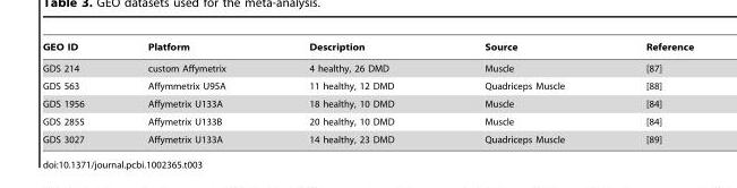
<table><thead><tr><td>GEO ID</td><td>Platform</td><td>Description</td><td>Source</td><td>Reference</td></tr></thead><tbody><tr><td>GDS 214</td><td>custom Affymetrix</td><td>4 healthy, 26 DMD</td><td>Muscle</td><td>[87]</td></tr><tr><td>GDS 563</td><td>Affymmetrix U95A</td><td>11 healthy, 12 DMD</td><td>Quadriceps Muscle</td><td>[88]</td></tr><tr><td>GDS 1956</td><td>Affymetrix U133A</td><td>18 healthy, 10 DMD</td><td>Muscle</td><td>[84]</td></tr><tr><td>GDS 2855</td><td>Affymetrix U133B</td><td>20 healthy, 10 DMD</td><td>Muscle</td><td>[84]</td></tr><tr><td>GDS 3027</td><td>Affymetrix U133A</td><td>14 healthy, 23 DMD</td><td>Quadriceps Muscle</td><td>[89]</td></tr></tbody></table>